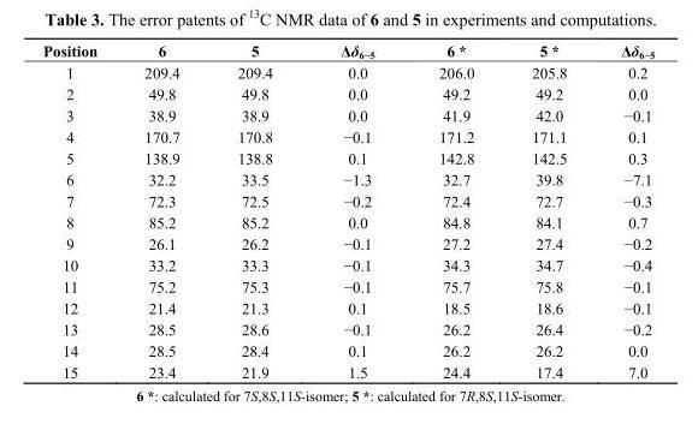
<table><thead><tr><td>Position</td><td>6</td><td>5</td><td>Δδ<sub>6−5</sub></td><td>6 *</td><td>5 *</td><td>Δδ<sub>6−5</sub></td></tr></thead><tbody><tr><td>1</td><td>209.4</td><td>209.4</td><td>0.0</td><td>206.0</td><td>205.8</td><td>0.2</td></tr><tr><td>2</td><td>49.8</td><td>49.8</td><td>0.0</td><td>49.2</td><td>49.2</td><td>0.0</td></tr><tr><td>3</td><td>38.9</td><td>38.9</td><td>0.0</td><td>41.9</td><td>42.0</td><td>−0.1</td></tr><tr><td>4</td><td>170.7</td><td>170.8</td><td>−0.1</td><td>171.2</td><td>171.1</td><td>0.1</td></tr><tr><td>5</td><td>138.9</td><td>138.8</td><td>0.1</td><td>142.8</td><td>142.5</td><td>0.3</td></tr><tr><td>6</td><td>32.2</td><td>33.5</td><td>−1.3</td><td>32.7</td><td>39.8</td><td>−7.1</td></tr><tr><td>7</td><td>72.3</td><td>72.5</td><td>−0.2</td><td>72.4</td><td>72.7</td><td>−0.3</td></tr><tr><td>8</td><td>85.2</td><td>85.2</td><td>0.0</td><td>84.8</td><td>84.1</td><td>0.7</td></tr><tr><td>9</td><td>26.1</td><td>26.2</td><td>−0.1</td><td>27.2</td><td>27.4</td><td>−0.2</td></tr><tr><td>10</td><td>33.2</td><td>33.3</td><td>−0.1</td><td>34.3</td><td>34.7</td><td>−0.4</td></tr><tr><td>11</td><td>75.2</td><td>75.3</td><td>−0.1</td><td>75.7</td><td>75.8</td><td>−0.1</td></tr><tr><td>12</td><td>21.4</td><td>21.3</td><td>0.1</td><td>18.5</td><td>18.6</td><td>−0.1</td></tr><tr><td>13</td><td>28.5</td><td>28.6</td><td>−0.1</td><td>26.2</td><td>26.4</td><td>−0.2</td></tr><tr><td>14</td><td>28.5</td><td>28.4</td><td>0.1</td><td>26.2</td><td>26.2</td><td>0.0</td></tr><tr><td>15</td><td>23.4</td><td>21.9</td><td>1.5</td><td>24.4</td><td>17.4</td><td>7.0</td></tr></tbody></table>